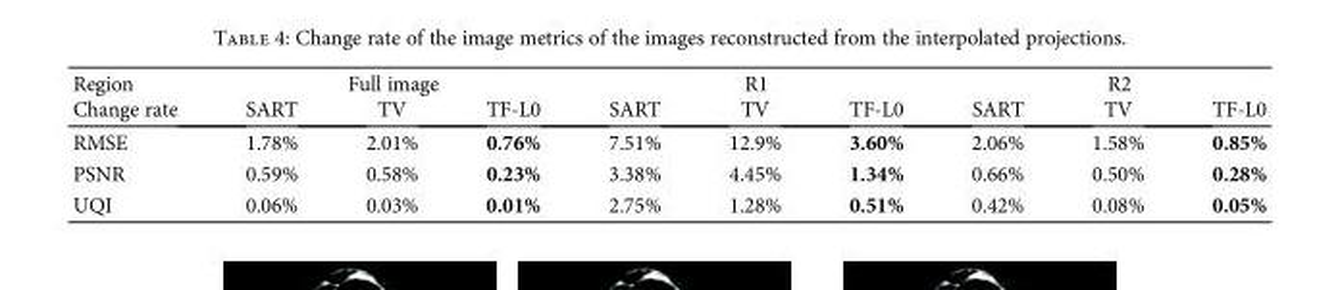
<table><thead><tr><td rowspan="2">Region Change rate</td><td colspan="3">Full image</td><td colspan="3">R1</td><td colspan="3">R2</td></tr><tr><td>SART</td><td>TV</td><td>TF-L0</td><td>SART</td><td>TV</td><td>TF-L0</td><td>SART</td><td>TV</td><td>TF-L0</td></tr></thead><tbody><tr><td>RMSE</td><td>1.78%</td><td>2.01%</td><td>0.76%</td><td>7.51%</td><td>12.9%</td><td>3.60%</td><td>2.06%</td><td>1.58%</td><td>0.85%</td></tr><tr><td>PSNR</td><td>0.59%</td><td>0.58%</td><td>0.23%</td><td>3.38%</td><td>4.45%</td><td>1.34%</td><td>0.66%</td><td>0.50%</td><td>0.28%</td></tr><tr><td>UQI</td><td>0.06%</td><td>0.03%</td><td>0.01%</td><td>2.75%</td><td>1.28%</td><td>0.51%</td><td>0.42%</td><td>0.08%</td><td>0.05%</td></tr></tbody></table>